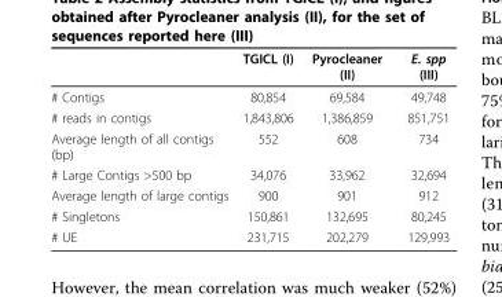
<table><thead><tr><td></td><td>TGICL (I)</td><td>Pyrocleaner (II)</td><td>E. spp (III)</td></tr></thead><tbody><tr><td># Contigs</td><td>80,854</td><td>69,584</td><td>49,748</td></tr><tr><td># reads in contigs</td><td>1,843,806</td><td>1,386,859</td><td>851,751</td></tr><tr><td>Average length of all contigs (bp)</td><td>552</td><td>608</td><td>734</td></tr><tr><td># Large Contigs &gt;500 bp</td><td>34,076</td><td>33,962</td><td>32,694</td></tr><tr><td>Average length of large contigs</td><td>900</td><td>901</td><td>912</td></tr><tr><td># Singletons</td><td>150,861</td><td>132,695</td><td>80,245</td></tr><tr><td># UE</td><td>231,715</td><td>202,279</td><td>129,993</td></tr></tbody></table>